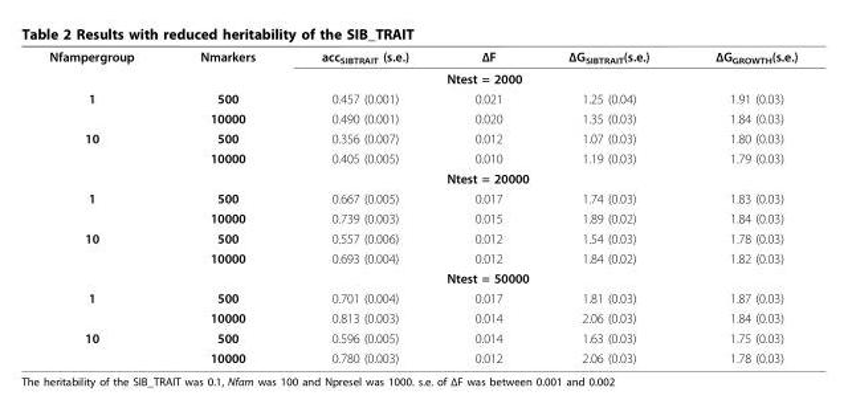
<table><tbody><tr><td rowspan="2">Nfampergroup</td><td>Nmarkers</td><td>acc<sub>SIBTRAIT</sub> (s.e.)</td><td>ΔF</td><td>ΔG<sub>SIBTRAIT</sub>(s.e.)</td><td>ΔG<sub>GROWTH</sub>(s.e.)</td></tr><tr><td></td><td></td><td colspan="2">Ntest = 2000</td><td></td></tr><tr><td rowspan="2">1</td><td>500</td><td>0.457 (0.001)</td><td>0.021</td><td>1.25 (0.04)</td><td>1.91 (0.03)</td></tr><tr><td>10000</td><td>0.490 (0.001)</td><td>0.020</td><td>1.35 (0.03)</td><td>1.84 (0.03)</td></tr><tr><td rowspan="3">10</td><td>500</td><td>0.356 (0.007)</td><td>0.012</td><td>1.07 (0.03)</td><td>1.80 (0.03)</td></tr><tr><td>10000</td><td>0.405 (0.005)</td><td>0.010</td><td>1.19 (0.03)</td><td>1.79 (0.03)</td></tr><tr><td></td><td></td><td colspan="2">Ntest = 20000</td><td></td></tr><tr><td rowspan="2">1</td><td>500</td><td>0.667 (0.005)</td><td>0.017</td><td>1.74 (0.03)</td><td>1.83 (0.03)</td></tr><tr><td>10000</td><td>0.739 (0.003)</td><td>0.015</td><td>1.89 (0.02)</td><td>1.84 (0.03)</td></tr><tr><td rowspan="3">10</td><td>500</td><td>0.557 (0.006)</td><td>0.012</td><td>1.54 (0.03)</td><td>1.78 (0.03)</td></tr><tr><td>10000</td><td>0.693 (0.004)</td><td>0.012</td><td>1.84 (0.02)</td><td>1.82 (0.03)</td></tr><tr><td></td><td></td><td colspan="2">Ntest = 50000</td><td></td></tr><tr><td rowspan="2">1</td><td>500</td><td>0.701 (0.004)</td><td>0.017</td><td>1.81 (0.03)</td><td>1.87 (0.03)</td></tr><tr><td>10000</td><td>0.813 (0.003)</td><td>0.014</td><td>2.06 (0.03)</td><td>1.84 (0.03)</td></tr><tr><td rowspan="2">10</td><td>500</td><td>0.596 (0.005)</td><td>0.014</td><td>1.63 (0.03)</td><td>1.75 (0.03)</td></tr><tr><td>10000</td><td>0.780 (0.003)</td><td>0.012</td><td>2.06 (0.03)</td><td>1.78 (0.03)</td></tr></tbody></table>